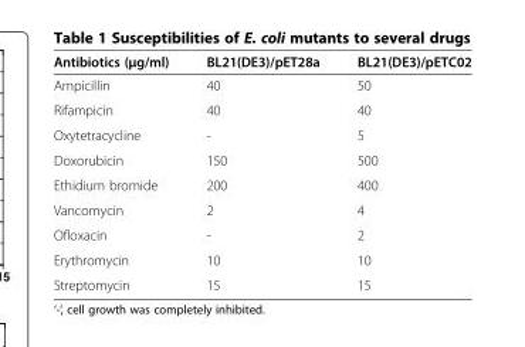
<table><thead><tr><td>Antibiotics (μg/ml)</td><td>BL21(DE3)/pET28a</td><td>BL21(DE3)/pETC02</td></tr></thead><tbody><tr><td>Ampicillin</td><td>40</td><td>50</td></tr><tr><td>Rifampicin</td><td>40</td><td>40</td></tr><tr><td>Oxytetracycline</td><td>-</td><td>5</td></tr><tr><td>Doxorubicin</td><td>150</td><td>500</td></tr><tr><td>Ethidium bromide</td><td>200</td><td>400</td></tr><tr><td>Vancomycin</td><td>2</td><td>4</td></tr><tr><td>Ofloxacin</td><td>-</td><td>2</td></tr><tr><td>Erythromycin</td><td>10</td><td>10</td></tr><tr><td>Streptomycin</td><td>15</td><td>15</td></tr></tbody></table>